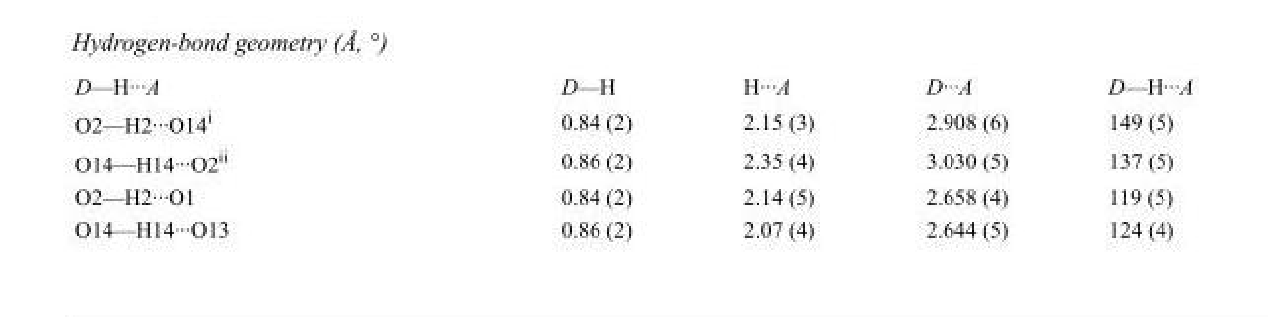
<table><tbody><tr><td>D—H···A</td><td>D—H</td><td>H···A</td><td>D···A</td><td>D—H···A</td></tr><tr><td>O2—H2···O14<sup>i</sup></td><td>0.84 (2)</td><td>2.15 (3)</td><td>2.908 (6)</td><td>149 (5)</td></tr><tr><td>O14—H14···O2<sup>ii</sup></td><td>0.86 (2)</td><td>2.35 (4)</td><td>3.030 (5)</td><td>137 (5)</td></tr><tr><td>O2—H2···O1</td><td>0.84 (2)</td><td>2.14 (5)</td><td>2.658 (4)</td><td>119 (5)</td></tr><tr><td>O14—H14···O13</td><td>0.86 (2)</td><td>2.07 (4)</td><td>2.644 (5)</td><td>124 (4)</td></tr></tbody></table>